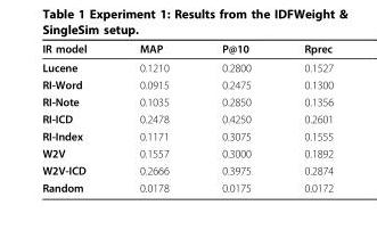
<table><thead><tr><td>IR model</td><td>MAP</td><td>P@10</td><td>Rprec</td></tr></thead><tbody><tr><td>Lucene</td><td>0.1210</td><td>0.2800</td><td>0.1527</td></tr><tr><td>RI-Word</td><td>0.0915</td><td>0.2475</td><td>0.1300</td></tr><tr><td>RI-Note</td><td>0.1035</td><td>0.2850</td><td>0.1356</td></tr><tr><td>RI-ICD</td><td>0.2478</td><td>0.4250</td><td>0.2601</td></tr><tr><td>RI-Index</td><td>0.1171</td><td>0.3075</td><td>0.1555</td></tr><tr><td>W2V</td><td>0.1557</td><td>0.3000</td><td>0.1892</td></tr><tr><td>W2V-ICD</td><td>0.2666</td><td>0.3975</td><td>0.2874</td></tr><tr><td>Random</td><td>0.0178</td><td>0.0175</td><td>0.0172</td></tr></tbody></table>